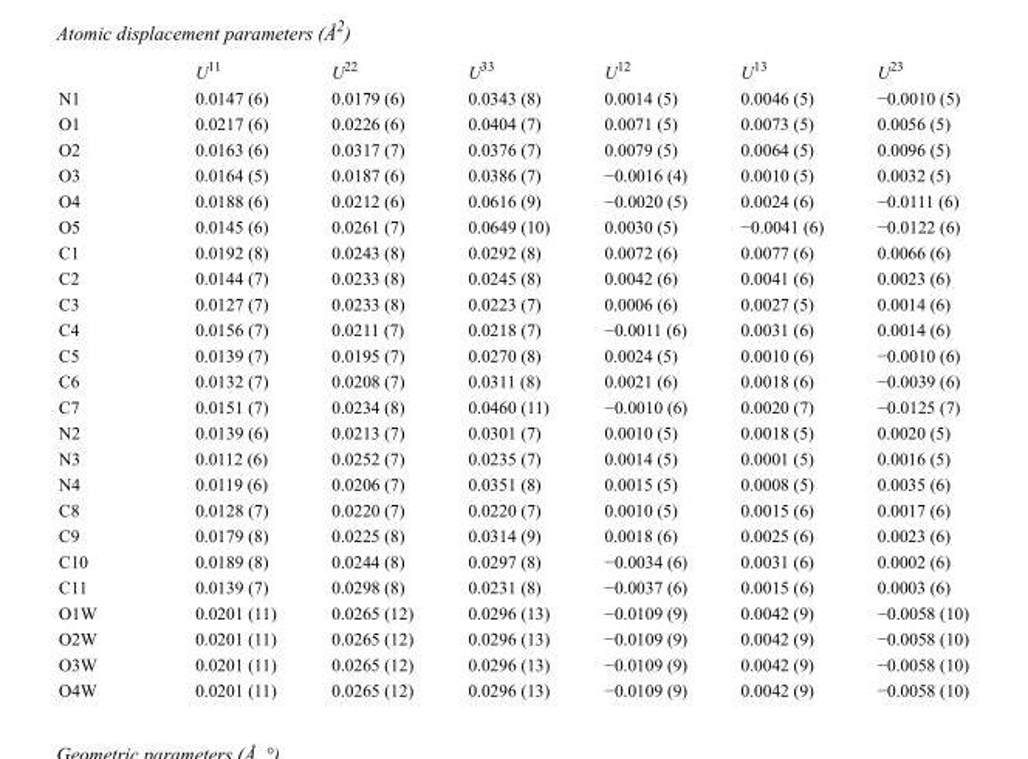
<table><thead><tr><td></td><td>U<sup>11</sup></td><td>U<sup>22</sup></td><td>U<sup>33</sup></td><td>U<sup>12</sup></td><td>U<sup>13</sup></td><td>U<sup>23</sup></td></tr></thead><tbody><tr><td>N1</td><td>0.0147 (6)</td><td>0.0179 (6)</td><td>0.0343 (8)</td><td>0.0014 (5)</td><td>0.0046 (5)</td><td>−0.0010 (5)</td></tr><tr><td>O1</td><td>0.0217 (6)</td><td>0.0226 (6)</td><td>0.0404 (7)</td><td>0.0071 (5)</td><td>0.0073 (5)</td><td>0.0056 (5)</td></tr><tr><td>O2</td><td>0.0163 (6)</td><td>0.0317 (7)</td><td>0.0376 (7)</td><td>0.0079 (5)</td><td>0.0064 (5)</td><td>0.0096 (5)</td></tr><tr><td>O3</td><td>0.0164 (5)</td><td>0.0187 (6)</td><td>0.0386 (7)</td><td>−0.0016 (4)</td><td>0.0010 (5)</td><td>0.0032 (5)</td></tr><tr><td>O4</td><td>0.0188 (6)</td><td>0.0212 (6)</td><td>0.0616 (9)</td><td>−0.0020 (5)</td><td>0.0024 (6)</td><td>−0.0111 (6)</td></tr><tr><td>O5</td><td>0.0145 (6)</td><td>0.0261 (7)</td><td>0.0649 (10)</td><td>0.0030 (5)</td><td>−0.0041 (6)</td><td>−0.0122 (6)</td></tr><tr><td>C1</td><td>0.0192 (8)</td><td>0.0243 (8)</td><td>0.0292 (8)</td><td>0.0072 (6)</td><td>0.0077 (6)</td><td>0.0066 (6)</td></tr><tr><td>C2</td><td>0.0144 (7)</td><td>0.0233 (8)</td><td>0.0245 (8)</td><td>0.0042 (6)</td><td>0.0041 (6)</td><td>0.0023 (6)</td></tr><tr><td>C3</td><td>0.0127 (7)</td><td>0.0233 (8)</td><td>0.0223 (7)</td><td>0.0006 (6)</td><td>0.0027 (5)</td><td>0.0014 (6)</td></tr><tr><td>C4</td><td>0.0156 (7)</td><td>0.0211 (7)</td><td>0.0218 (7)</td><td>−0.0011 (6)</td><td>0.0031 (6)</td><td>0.0014 (6)</td></tr><tr><td>C5</td><td>0.0139 (7)</td><td>0.0195 (7)</td><td>0.0270 (8)</td><td>0.0024 (5)</td><td>0.0010 (6)</td><td>−0.0010 (6)</td></tr><tr><td>C6</td><td>0.0132 (7)</td><td>0.0208 (7)</td><td>0.0311 (8)</td><td>0.0021 (6)</td><td>0.0018 (6)</td><td>−0.0039 (6)</td></tr><tr><td>C7</td><td>0.0151 (7)</td><td>0.0234 (8)</td><td>0.0460 (11)</td><td>−0.0010 (6)</td><td>0.0020 (7)</td><td>−0.0125 (7)</td></tr><tr><td>N2</td><td>0.0139 (6)</td><td>0.0213 (7)</td><td>0.0301 (7)</td><td>0.0010 (5)</td><td>0.0018 (5)</td><td>0.0020 (5)</td></tr><tr><td>N3</td><td>0.0112 (6)</td><td>0.0252 (7)</td><td>0.0235 (7)</td><td>0.0014 (5)</td><td>0.0001 (5)</td><td>0.0016 (5)</td></tr><tr><td>N4</td><td>0.0119 (6)</td><td>0.0206 (7)</td><td>0.0351 (8)</td><td>0.0015 (5)</td><td>0.0008 (5)</td><td>0.0035 (6)</td></tr><tr><td>C8</td><td>0.0128 (7)</td><td>0.0220 (7)</td><td>0.0220 (7)</td><td>0.0010 (5)</td><td>0.0015 (6)</td><td>0.0017 (6)</td></tr><tr><td>C9</td><td>0.0179 (8)</td><td>0.0225 (8)</td><td>0.0314 (9)</td><td>0.0018 (6)</td><td>0.0025 (6)</td><td>0.0023 (6)</td></tr><tr><td>C10</td><td>0.0189 (8)</td><td>0.0244 (8)</td><td>0.0297 (8)</td><td>−0.0034 (6)</td><td>0.0031 (6)</td><td>0.0002 (6)</td></tr><tr><td>C11</td><td>0.0139 (7)</td><td>0.0298 (8)</td><td>0.0231 (8)</td><td>−0.0037 (6)</td><td>0.0015 (6)</td><td>0.0003 (6)</td></tr><tr><td>O1W</td><td>0.0201 (11)</td><td>0.0265 (12)</td><td>0.0296 (13)</td><td>−0.0109 (9)</td><td>0.0042 (9)</td><td>−0.0058 (10)</td></tr><tr><td>O2W</td><td>0.0201 (11)</td><td>0.0265 (12)</td><td>0.0296 (13)</td><td>−0.0109 (9)</td><td>0.0042 (9)</td><td>−0.0058 (10)</td></tr><tr><td>O3W</td><td>0.0201 (11)</td><td>0.0265 (12)</td><td>0.0296 (13)</td><td>−0.0109 (9)</td><td>0.0042 (9)</td><td>−0.0058 (10)</td></tr><tr><td>O4W</td><td>0.0201 (11)</td><td>0.0265 (12)</td><td>0.0296 (13)</td><td>−0.0109 (9)</td><td>0.0042 (9)</td><td>−0.0058 (10)</td></tr></tbody></table>